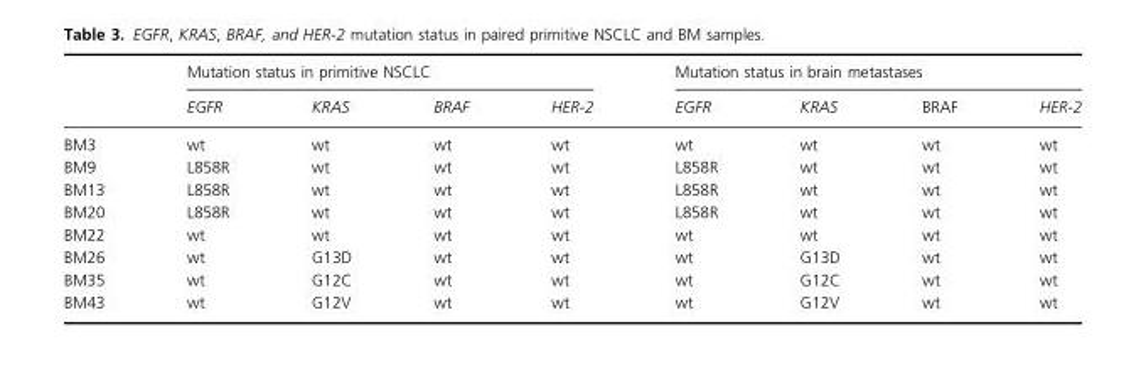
<table><thead><tr><td rowspan="2"></td><td colspan="4">Mutation status in primitive NSCLC</td><td colspan="4">Mutation status in brain metastases</td></tr><tr><td>EGFR</td><td>KRAS</td><td>BRAF</td><td>HER-2</td><td>EGFR</td><td>KRAS</td><td>BRAF</td><td>HER-2</td></tr></thead><tbody><tr><td>BM3</td><td>wt</td><td>wt</td><td>wt</td><td>wt</td><td>wt</td><td>wt</td><td>wt</td><td>wt</td></tr><tr><td>BM9</td><td>L858R</td><td>wt</td><td>wt</td><td>wt</td><td>L858R</td><td>wt</td><td>wt</td><td>wt</td></tr><tr><td>BM13</td><td>L858R</td><td>wt</td><td>wt</td><td>wt</td><td>L858R</td><td>wt</td><td>wt</td><td>wt</td></tr><tr><td>BM20</td><td>L858R</td><td>wt</td><td>wt</td><td>wt</td><td>L858R</td><td>wt</td><td>wt</td><td>wt</td></tr><tr><td>BM22</td><td>wt</td><td>wt</td><td>wt</td><td>wt</td><td>wt</td><td>wt</td><td>wt</td><td>wt</td></tr><tr><td>BM26</td><td>wt</td><td>G13D</td><td>wt</td><td>wt</td><td>wt</td><td>G13D</td><td>wt</td><td>wt</td></tr><tr><td>BM35</td><td>wt</td><td>G12C</td><td>wt</td><td>wt</td><td>wt</td><td>G12C</td><td>wt</td><td>wt</td></tr><tr><td>BM43</td><td>wt</td><td>G12V</td><td>wt</td><td>wt</td><td>wt</td><td>G12V</td><td>wt</td><td>wt</td></tr></tbody></table>